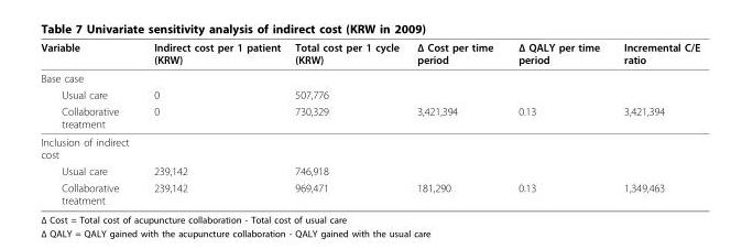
<table><thead><tr><td>Variable</td><td>Indirect cost per 1 patient (KRW)</td><td>Total cost per 1 cycle (KRW)</td><td>Δ Cost per time period</td><td>Δ QALY per time period</td><td>Incremental C/E ratio</td></tr></thead><tbody><tr><td colspan="6">Base case</td></tr><tr><td>Usual care</td><td>0</td><td>507,776</td><td></td><td></td><td></td></tr><tr><td>Collaborative treatment</td><td>0</td><td>730,329</td><td>3,421,394</td><td>0.13</td><td>3,421,394</td></tr><tr><td colspan="6">Inclusion of indirect cost</td></tr><tr><td>Usual care</td><td>239,142</td><td>746,918</td><td></td><td></td><td></td></tr><tr><td>Collaborative treatment</td><td>239,142</td><td>969,471</td><td>181,290</td><td>0.13</td><td>1,349,463</td></tr></tbody></table>